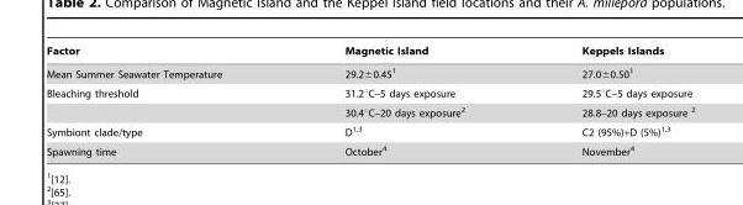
<table><thead><tr><td>Factor</td><td>Magnetic Island</td><td>Keppels Islands</td></tr></thead><tbody><tr><td>Mean Summer Seawater Temperature</td><td>29.2±0.45<sup>1</sup></td><td>27.0±0.50<sup>1</sup></td></tr><tr><td rowspan="2">Bleaching threshold</td><td>31.2°C–5 days exposure</td><td>29.5°C–5 days exposure</td></tr><tr><td>30.4°C–20 days exposure<sup>2</sup></td><td>28.8–20 days exposure 2</td></tr><tr><td>Symbiont clade/type</td><td>D<sup>1,3</sup></td><td>C2 (95%)+D (5%)<sup>1,3</sup></td></tr><tr><td>Spawning time</td><td>October<sup>4</sup></td><td>November<sup>4</sup></td></tr></tbody></table>